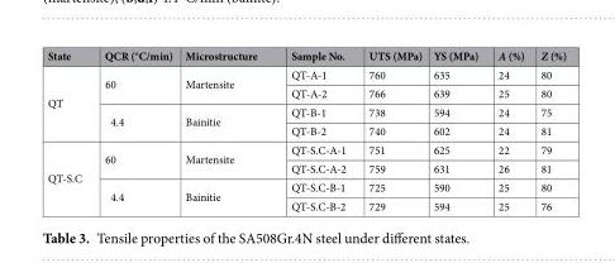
<table><thead><tr><td>State</td><td>QCR (°C/min)</td><td>Microstructure</td><td>Sample No.</td><td>UTS (MPa)</td><td>YS (MPa)</td><td>A (%)</td><td>Z (%)</td></tr></thead><tbody><tr><td rowspan="4">QT</td><td rowspan="2">60</td><td rowspan="2">Martensite</td><td>QT-A-1</td><td>760</td><td>635</td><td>24</td><td>80</td></tr><tr><td>QT-A-2</td><td>766</td><td>639</td><td>25</td><td>80</td></tr><tr><td rowspan="2">4.4</td><td rowspan="2">Bainitie</td><td>QT-B-1</td><td>738</td><td>594</td><td>24</td><td>75</td></tr><tr><td>QT-B-2</td><td>740</td><td>602</td><td>24</td><td>81</td></tr><tr><td rowspan="4">QT-S.C</td><td rowspan="2">60</td><td rowspan="2">Martensite</td><td>QT-S.C-A-1</td><td>751</td><td>625</td><td>22</td><td>79</td></tr><tr><td>QT-S.C-A-2</td><td>759</td><td>631</td><td>26</td><td>81</td></tr><tr><td rowspan="2">4.4</td><td rowspan="2">Bainitie</td><td>QT-S.C-B-1</td><td>725</td><td>590</td><td>25</td><td>80</td></tr><tr><td>QT-S.C-B-2</td><td>729</td><td>594</td><td>25</td><td>76</td></tr></tbody></table>